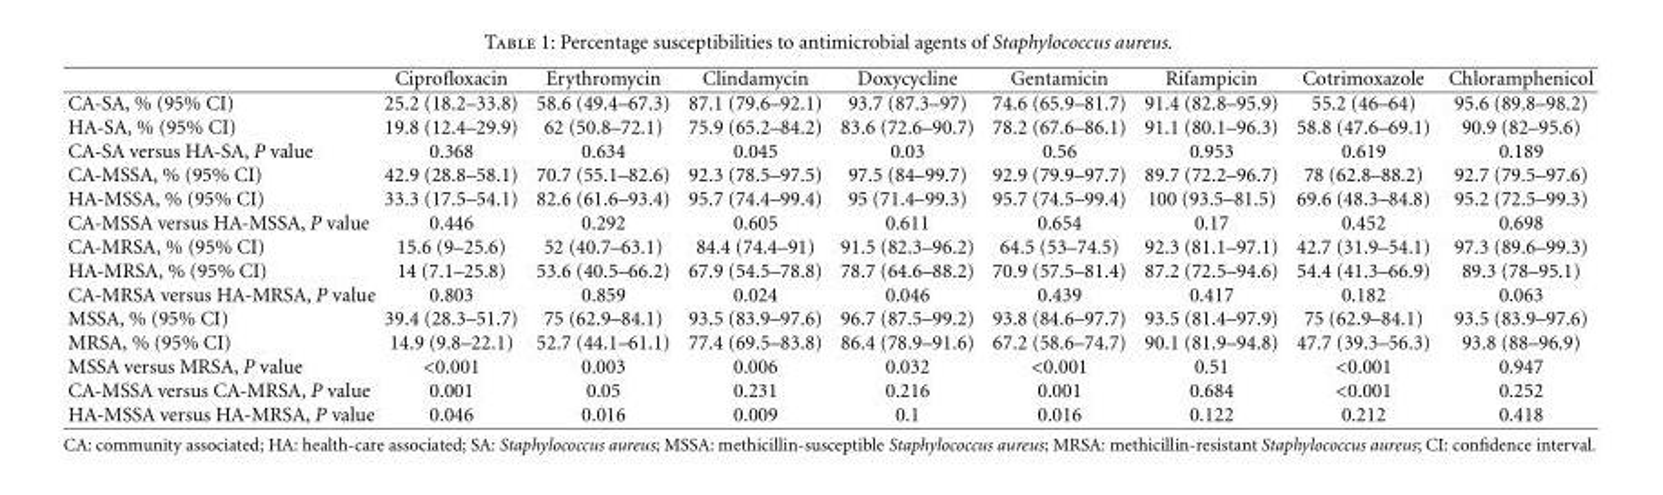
<table><thead><tr><td></td><td>Ciprofloxacin</td><td>Erythromycin</td><td>Clindamycin</td><td>Doxycycline</td><td>Gentamicin</td><td>Rifampicin</td><td>Cotrimoxazole</td><td>Chloramphenicol</td></tr></thead><tbody><tr><td>CA-SA, % (95% CI)</td><td>25.2 (18.2–33.8)</td><td>58.6 (49.4–67.3)</td><td>87.1 (79.6–92.1)</td><td>93.7 (87.3–97)</td><td>74.6 (65.9–81.7)</td><td>91.4 (82.8–95.9)</td><td>55.2 (46–64)</td><td>95.6 (89.8–98.2)</td></tr><tr><td>HA-SA, % (95% CI)</td><td>19.8 (12.4–29.9)</td><td>62 (50.8–72.1)</td><td>75.9 (65.2–84.2)</td><td>83.6 (72.6–90.7)</td><td>78.2 (67.6–86.1)</td><td>91.1 (80.1–96.3)</td><td>58.8 (47.6–69.1)</td><td>90.9 (82–95.6)</td></tr><tr><td>CA-SA versus HA-SA, P value</td><td>0.368</td><td>0.634</td><td>0.045</td><td>0.03</td><td>0.56</td><td>0.953</td><td>0.619</td><td>0.189</td></tr><tr><td>CA-MSSA, % (95% CI)</td><td>42.9 (28.8–58.1)</td><td>70.7 (55.1–82.6)</td><td>92.3 (78.5–97.5)</td><td>97.5 (84–99.7)</td><td>92.9 (79.9–97.7)</td><td>89.7 (72.2–96.7)</td><td>78 (62.8–88.2)</td><td>92.7 (79.5–97.6)</td></tr><tr><td>HA-MSSA, % (95% CI)</td><td>33.3 (17.5–54.1)</td><td>82.6 (61.6–93.4)</td><td>95.7 (74.4–99.4)</td><td>95 (71.4–99.3)</td><td>95.7 (74.5–99.4)</td><td>100 (93.5–81.5)</td><td>69.6 (48.3–84.8)</td><td>95.2 (72.5–99.3)</td></tr><tr><td>CA-MSSA versus HA-MSSA, P value</td><td>0.446</td><td>0.292</td><td>0.605</td><td>0.611</td><td>0.654</td><td>0.17</td><td>0.452</td><td>0.698</td></tr><tr><td>CA-MRSA, % (95% CI)</td><td>15.6 (9–25.6)</td><td>52 (40.7–63.1)</td><td>84.4 (74.4–91)</td><td>91.5 (82.3–96.2)</td><td>64.5 (53–74.5)</td><td>92.3 (81.1–97.1)</td><td>42.7 (31.9–54.1)</td><td>97.3 (89.6–99.3)</td></tr><tr><td>HA-MRSA, % (95% CI)</td><td>14 (7.1–25.8)</td><td>53.6 (40.5–66.2)</td><td>67.9 (54.5–78.8)</td><td>78.7 (64.6–88.2)</td><td>70.9 (57.5–81.4)</td><td>87.2 (72.5–94.6)</td><td>54.4 (41.3–66.9)</td><td>89.3 (78–95.1)</td></tr><tr><td>CA-MRSA versus HA-MRSA, P value</td><td>0.803</td><td>0.859</td><td>0.024</td><td>0.046</td><td>0.439</td><td>0.417</td><td>0.182</td><td>0.063</td></tr><tr><td>MSSA, % (95% CI)</td><td>39.4 (28.3–51.7)</td><td>75 (62.9–84.1)</td><td>93.5 (83.9–97.6)</td><td>96.7 (87.5–99.2)</td><td>93.8 (84.6–97.7)</td><td>93.5 (81.4–97.9)</td><td>75 (62.9–84.1)</td><td>93.5 (83.9–97.6)</td></tr><tr><td>MRSA, % (95% CI)</td><td>14.9 (9.8–22.1)</td><td>52.7 (44.1–61.1)</td><td>77.4 (69.5–83.8)</td><td>86.4 (78.9–91.6)</td><td>67.2 (58.6–74.7)</td><td>90.1 (81.9–94.8)</td><td>47.7 (39.3–56.3)</td><td>93.8 (88–96.9)</td></tr><tr><td>MSSA versus MRSA, P value</td><td>&lt;0.001</td><td>0.003</td><td>0.006</td><td>0.032</td><td>&lt;0.001</td><td>0.51</td><td>&lt;0.001</td><td>0.947</td></tr><tr><td>CA-MSSA versus CA-MRSA, P value</td><td>0.001</td><td>0.05</td><td>0.231</td><td>0.216</td><td>0.001</td><td>0.684</td><td>&lt;0.001</td><td>0.252</td></tr><tr><td>HA-MSSA versus HA-MRSA, P value</td><td>0.046</td><td>0.016</td><td>0.009</td><td>0.1</td><td>0.016</td><td>0.122</td><td>0.212</td><td>0.418</td></tr></tbody></table>